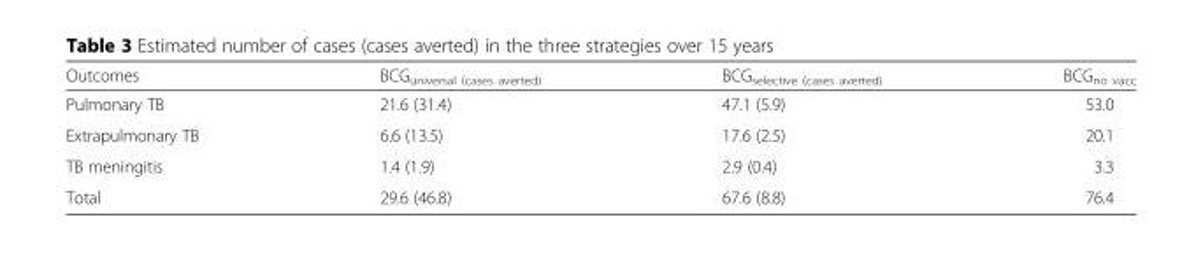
<table><thead><tr><td>Outcomes</td><td>BCG<sub>universal (cases averted)</sub></td><td>BCG<sub>selective (cases averted)</sub></td><td>BCG<sub>no vacc</sub></td></tr></thead><tbody><tr><td>Pulmonary TB</td><td>21.6 (31.4)</td><td>47.1 (5.9)</td><td>53.0</td></tr><tr><td>Extrapulmonary TB</td><td>6.6 (13.5)</td><td>17.6 (2.5)</td><td>20.1</td></tr><tr><td>TB meningitis</td><td>1.4 (1.9)</td><td>2.9 (0.4)</td><td>3.3</td></tr><tr><td>Total</td><td>29.6 (46.8)</td><td>67.6 (8.8)</td><td>76.4</td></tr></tbody></table>